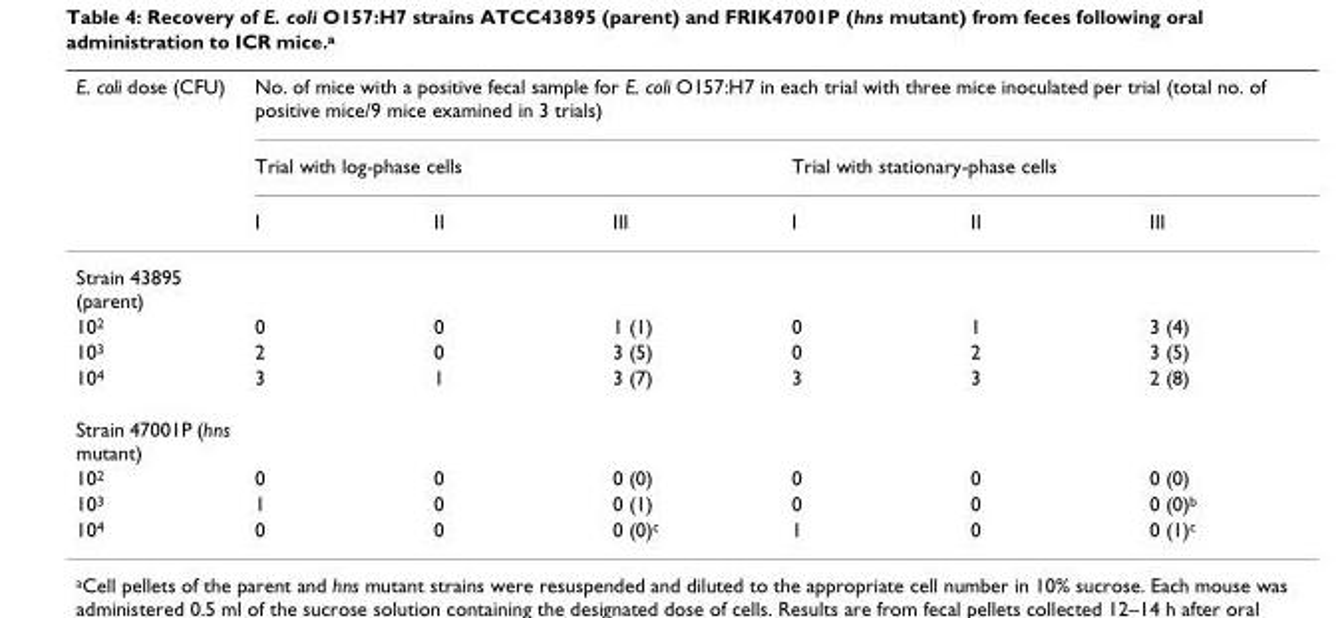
<table><thead><tr><td rowspan="3">E. coli dose (CFU)</td><td colspan="6">No. of mice with a positive fecal sample for E. coli O157:H7 in each trial with three mice inoculated per trial (total no. of positive mice/9 mice examined in 3 trials)</td></tr><tr><td colspan="3">Trial with log-phase cells</td><td colspan="3">Trial with stationary-phase cells</td></tr><tr><td>I</td><td>II</td><td>III</td><td>I</td><td>II</td><td>III</td></tr></thead><tbody><tr><td colspan="7">Strain 43895 (parent)</td></tr><tr><td>102</td><td>0</td><td>0</td><td>1 (1)</td><td>0</td><td>1</td><td>3 (4)</td></tr><tr><td>103</td><td>2</td><td>0</td><td>3 (5)</td><td>0</td><td>2</td><td>3 (5)</td></tr><tr><td>104</td><td>3</td><td>1</td><td>3 (7)</td><td>3</td><td>3</td><td>2 (8)</td></tr><tr><td colspan="7">Strain 47001P (hns mutant)</td></tr><tr><td>102</td><td>0</td><td>0</td><td>0 (0)</td><td>0</td><td>0</td><td>0 (0)</td></tr><tr><td>103</td><td>1</td><td>0</td><td>0 (1)</td><td>0</td><td>0</td><td>0 (0)b</td></tr><tr><td>104</td><td>0</td><td>0</td><td>0 (0)c</td><td>1</td><td>0</td><td>0 (1)c</td></tr></tbody></table>